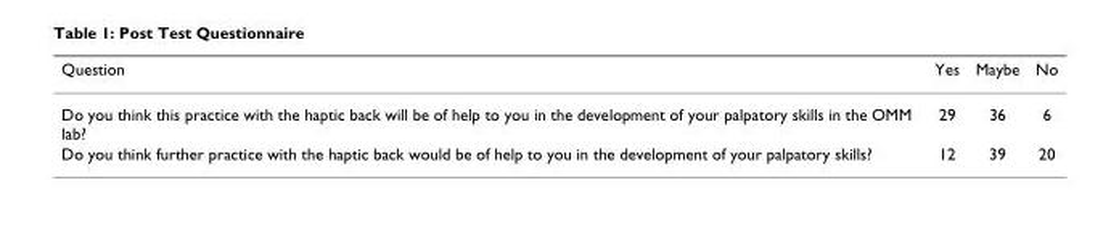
<table><thead><tr><td>Question</td><td>Yes</td><td>Maybe</td><td>No</td></tr></thead><tbody><tr><td>Do you think this practice with the haptic back will be of help to you in the development of your palpatory skills in the OMM lab?</td><td>29</td><td>36</td><td>6</td></tr><tr><td>Do you think further practice with the haptic back would be of help to you in the development of your palpatory skills?</td><td>12</td><td>39</td><td>20</td></tr></tbody></table>